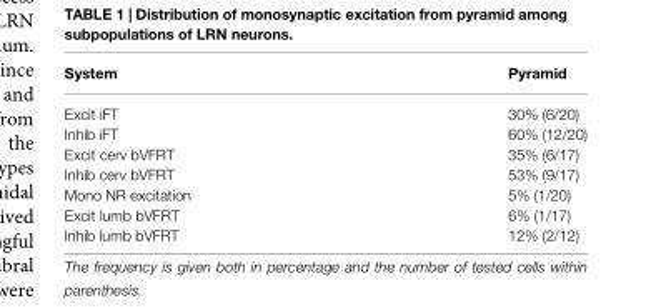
<table><thead><tr><td>System</td><td>Pyramid</td></tr></thead><tbody><tr><td>Excit iFT</td><td>30% (6/20)</td></tr><tr><td>Inhib iFT</td><td>60% (12/20)</td></tr><tr><td>Excit cerv bVFRT</td><td>35% (6/17)</td></tr><tr><td>Inhib cerv bVFRT</td><td>53% (9/17)</td></tr><tr><td>Mono NR excitation</td><td>5% (1/20)</td></tr><tr><td>Excit lumb bVFRT</td><td>6% (1/17)</td></tr><tr><td>Inhib lumb bVFRT</td><td>12% (2/12)</td></tr></tbody></table>